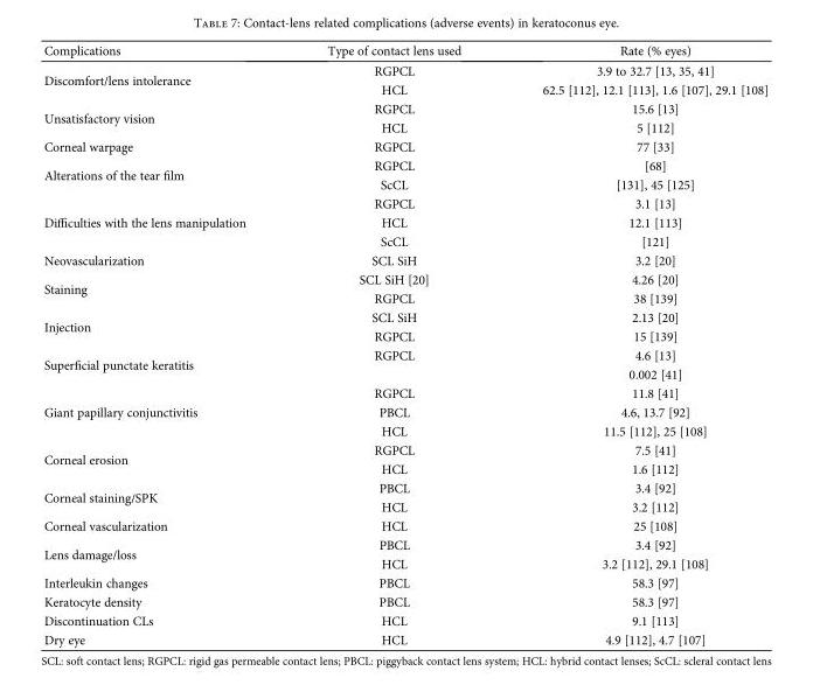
<table><thead><tr><td>Complications</td><td>Type of contact lens used</td><td>Rate (% eyes)</td></tr></thead><tbody><tr><td rowspan="2">Discomfort/lens intolerance</td><td>RGPCL</td><td>3.9 to 32.7 [13, 35, 41]</td></tr><tr><td>HCL</td><td>62.5 [112], 12.1 [113], 1.6 [107], 29.1 [108]</td></tr><tr><td rowspan="2">Unsatisfactory vision</td><td>RGPCL</td><td>15.6 [13]</td></tr><tr><td>HCL</td><td>5 [112]</td></tr><tr><td>Corneal warpage</td><td>RGPCL</td><td>77 [33]</td></tr><tr><td rowspan="2">Alterations of the tear film</td><td>RGPCL</td><td>[68]</td></tr><tr><td>ScCL</td><td>[131], 45 [125]</td></tr><tr><td rowspan="3">Difficulties with the lens manipulation</td><td>RGPCL</td><td>3.1 [13]</td></tr><tr><td>HCL</td><td>12.1 [113]</td></tr><tr><td>ScCL</td><td>[121]</td></tr><tr><td>Neovascularization</td><td>SCL SiH</td><td>3.2 [20]</td></tr><tr><td rowspan="2">Staining</td><td>SCL SiH [20]</td><td>4.26 [20]</td></tr><tr><td>RGPCL</td><td>38 [139]</td></tr><tr><td rowspan="2">Injection</td><td>SCL SiH</td><td>2.13 [20]</td></tr><tr><td>RGPCL</td><td>15 [139]</td></tr><tr><td rowspan="2">Superficial punctate keratitis</td><td>RGPCL</td><td>4.6 [13]</td></tr><tr><td></td><td>0.002 [41]</td></tr><tr><td rowspan="3">Giant papillary conjunctivitis</td><td>RGPCL</td><td>11.8 [41]</td></tr><tr><td>PBCL</td><td>4.6, 13.7 [92]</td></tr><tr><td>HCL</td><td>11.5 [112], 25 [108]</td></tr><tr><td rowspan="2">Corneal erosion</td><td>RGPCL</td><td>7.5 [41]</td></tr><tr><td>HCL</td><td>1.6 [112]</td></tr><tr><td rowspan="2">Corneal staining/SPK</td><td>PBCL</td><td>3.4 [92]</td></tr><tr><td>HCL</td><td>3.2 [112]</td></tr><tr><td>Corneal vascularization</td><td>HCL</td><td>25 [108]</td></tr><tr><td rowspan="2">Lens damage/loss</td><td>PBCL</td><td>3.4 [92]</td></tr><tr><td>HCL</td><td>3.2 [112], 29.1 [108]</td></tr><tr><td>Interleukin changes</td><td>PBCL</td><td>58.3 [97]</td></tr><tr><td>Keratocyte density</td><td>PBCL</td><td>58.3 [97]</td></tr><tr><td>Discontinuation CLs</td><td>HCL</td><td>9.1 [113]</td></tr><tr><td>Dry eye</td><td>HCL</td><td>4.9 [112], 4.7 [107]</td></tr></tbody></table>